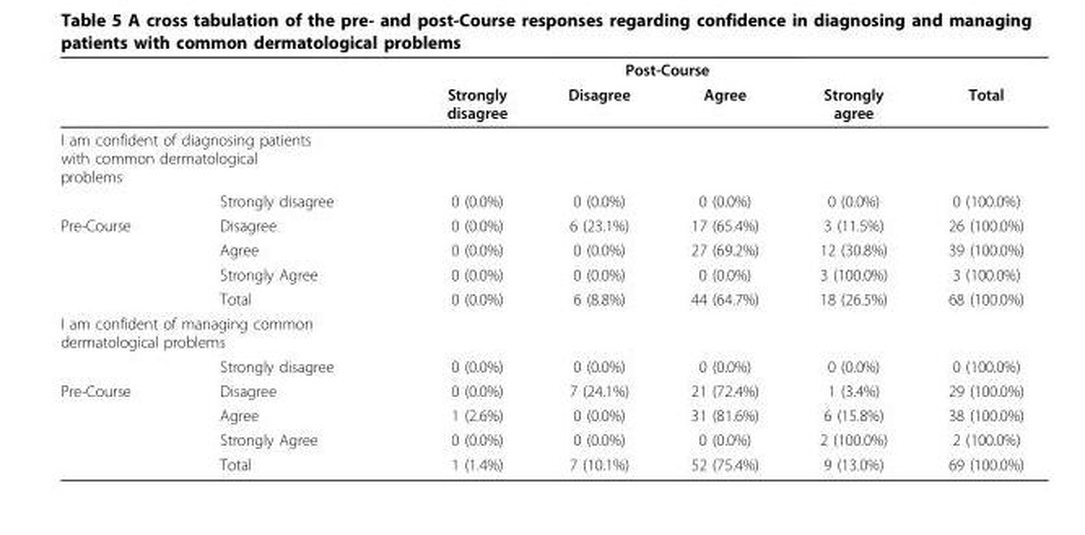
<table><thead><tr><td rowspan="2"></td><td rowspan="2"></td><td colspan="4">Post-Course</td><td rowspan="2">Total</td></tr><tr><td>Strongly disagree</td><td>Disagree</td><td>Agree</td><td>Strongly agree</td></tr></thead><tbody><tr><td colspan="7">I am confident of diagnosing patients with common dermatological problems</td></tr><tr><td></td><td>Strongly disagree</td><td>0 (0.0%)</td><td>0 (0.0%)</td><td>0 (0.0%)</td><td>0 (0.0%)</td><td>0 (100.0%)</td></tr><tr><td rowspan="4">Pre-Course</td><td>Disagree</td><td>0 (0.0%)</td><td>6 (23.1%)</td><td>17 (65.4%)</td><td>3 (11.5%)</td><td>26 (100.0%)</td></tr><tr><td>Agree</td><td>0 (0.0%)</td><td>0 (0.0%)</td><td>27 (69.2%)</td><td>12 (30.8%)</td><td>39 (100.0%)</td></tr><tr><td>Strongly Agree</td><td>0 (0.0%)</td><td>0 (0.0%)</td><td>0 (0.0%)</td><td>3 (100.0%)</td><td>3 (100.0%)</td></tr><tr><td>Total</td><td>0 (0.0%)</td><td>6 (8.8%)</td><td>44 (64.7%)</td><td>18 (26.5%)</td><td>68 (100.0%)</td></tr><tr><td colspan="7">I am confident of managing common dermatological problems</td></tr><tr><td></td><td>Strongly disagree</td><td>0 (0.0%)</td><td>0 (0.0%)</td><td>0 (0.0%)</td><td>0 (0.0%)</td><td>0 (100.0%)</td></tr><tr><td rowspan="4">Pre-Course</td><td>Disagree</td><td>0 (0.0%)</td><td>7 (24.1%)</td><td>21 (72.4%)</td><td>1 (3.4%)</td><td>29 (100.0%)</td></tr><tr><td>Agree</td><td>1 (2.6%)</td><td>0 (0.0%)</td><td>31 (81.6%)</td><td>6 (15.8%)</td><td>38 (100.0%)</td></tr><tr><td>Strongly Agree</td><td>0 (0.0%)</td><td>0 (0.0%)</td><td>0 (0.0%)</td><td>2 (100.0%)</td><td>2 (100.0%)</td></tr><tr><td>Total</td><td>1 (1.4%)</td><td>7 (10.1%)</td><td>52 (75.4%)</td><td>9 (13.0%)</td><td>69 (100.0%)</td></tr></tbody></table>